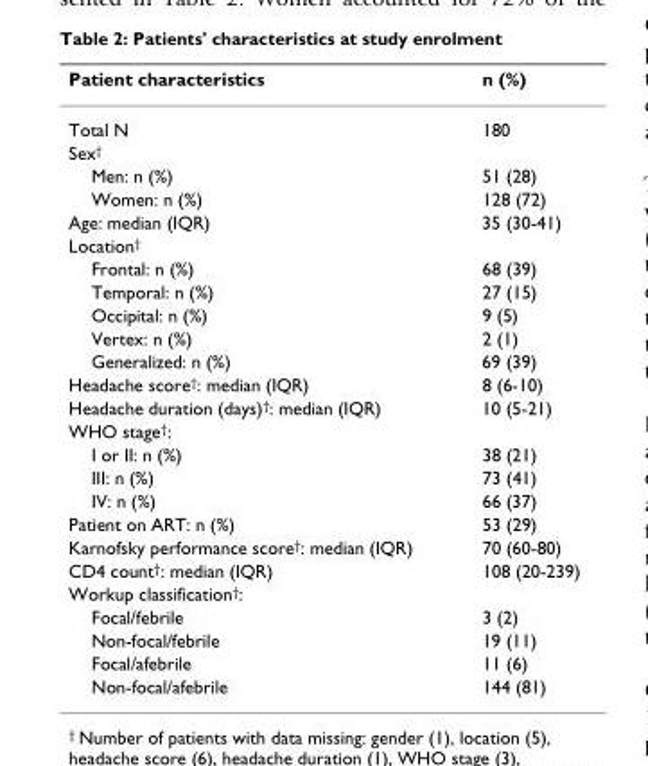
<table><thead><tr><td>Patient characteristics</td><td>n (%)</td></tr></thead><tbody><tr><td>Total N</td><td>180</td></tr><tr><td colspan="2">Sex<sup>†</sup></td></tr><tr><td>Men: n (%)</td><td>51 (28)</td></tr><tr><td>Women: n (%)</td><td>128 (72)</td></tr><tr><td>Age: median (IQR)</td><td>35 (30-41)</td></tr><tr><td colspan="2">Location<sup>†</sup></td></tr><tr><td>Frontal: n (%)</td><td>68 (39)</td></tr><tr><td>Temporal: n (%)</td><td>27 (15)</td></tr><tr><td>Occipital: n (%)</td><td>9 (5)</td></tr><tr><td>Vertex: n (%)</td><td>2 (1)</td></tr><tr><td>Generalized: n (%)</td><td>69 (39)</td></tr><tr><td>Headache score<sup>†</sup>: median (IQR)</td><td>8 (6-10)</td></tr><tr><td>Headache duration (days)<sup>†</sup>: median (IQR)</td><td>10 (5-21)</td></tr><tr><td colspan="2">WHO stage<sup>†</sup>:</td></tr><tr><td>I or II: n (%)</td><td>38 (21)</td></tr><tr><td>III: n (%)</td><td>73 (41)</td></tr><tr><td>IV: n (%)</td><td>66 (37)</td></tr><tr><td>Patient on ART: n (%)</td><td>53 (29)</td></tr><tr><td>Karnofsky performance score<sup>†</sup>: median (IQR)</td><td>70 (60-80)</td></tr><tr><td>CD4 count<sup>†</sup>: median (IQR)</td><td>108 (20-239)</td></tr><tr><td colspan="2">Workup classification<sup>†</sup>:</td></tr><tr><td>Focal/febrile</td><td>3 (2)</td></tr><tr><td>Non-focal/febrile</td><td>19 (11)</td></tr><tr><td>Focal/afebrile</td><td>11 (6)</td></tr><tr><td>Non-focal/afebrile</td><td>144 (81)</td></tr></tbody></table>